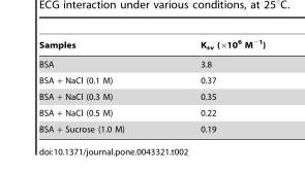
<table><thead><tr><td>Samples</td><td>K<sub>sv</sub> (×10<sup>6</sup> M<sup>−1</sup>)</td></tr></thead><tbody><tr><td>BSA</td><td>3.8</td></tr><tr><td>BSA + NaCl (0.1 M)</td><td>0.37</td></tr><tr><td>BSA + NaCl (0.3 M)</td><td>0.35</td></tr><tr><td>BSA + NaCl (0.5 M)</td><td>0.22</td></tr><tr><td>BSA + Sucrose (1.0 M)</td><td>0.19</td></tr></tbody></table>